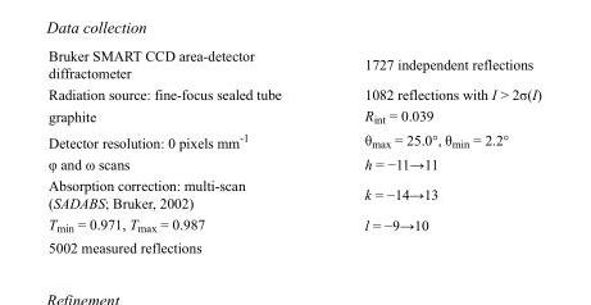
<table><tbody><tr><td>Bruker SMART CCD area-detector diffractometer</td><td>1727 independent reflections</td></tr><tr><td>Radiation source: fine-focus sealed tube</td><td>1082 reflections with I &gt; 2σ(I)</td></tr><tr><td>graphite</td><td>R<sub>int</sub> = 0.039</td></tr><tr><td>Detector resolution: 0 pixels mm<sup>-1</sup></td><td>θ<sub>max</sub> = 25.0°, θ<sub>min</sub> = 2.2°</td></tr><tr><td>φ and ω scans</td><td>h = −11→11</td></tr><tr><td>Absorption correction: multi-scan (SADABS; Bruker, 2002)</td><td>k = −14→13</td></tr><tr><td>T<sub>min</sub> = 0.971, T<sub>max</sub> = 0.987</td><td>l = −9→10</td></tr><tr><td>5002 measured reflections</td><td></td></tr></tbody></table>